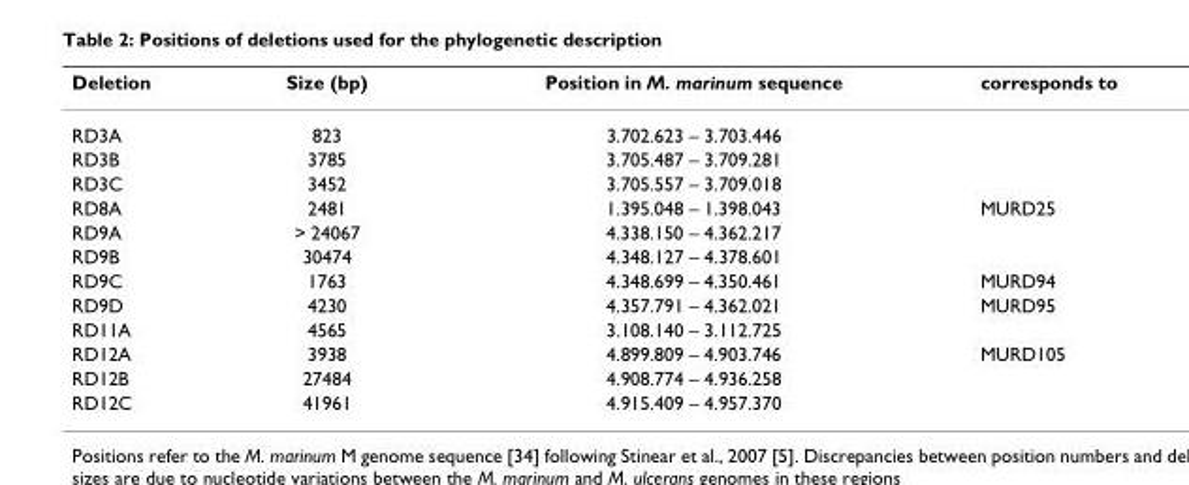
<table><thead><tr><td>Deletion</td><td>Size (bp)</td><td>Position in M. marinum sequence</td><td>corresponds to</td></tr></thead><tbody><tr><td>RD3A</td><td>823</td><td>3.702.623 – 3.703.446</td><td></td></tr><tr><td>RD3B</td><td>3785</td><td>3.705.487 – 3.709.281</td><td></td></tr><tr><td>RD3C</td><td>3452</td><td>3.705.557 – 3.709.018</td><td></td></tr><tr><td>RD8A</td><td>2481</td><td>1.395.048 – 1.398.043</td><td>MURD25</td></tr><tr><td>RD9A</td><td>&gt; 24067</td><td>4.338.150 – 4.362.217</td><td></td></tr><tr><td>RD9B</td><td>30474</td><td>4.348.127 – 4.378.601</td><td></td></tr><tr><td>RD9C</td><td>1763</td><td>4.348.699 – 4.350.461</td><td>MURD94</td></tr><tr><td>RD9D</td><td>4230</td><td>4.357.791 – 4.362.021</td><td>MURD95</td></tr><tr><td>RD11A</td><td>4565</td><td>3.108.140 – 3.112.725</td><td></td></tr><tr><td>RD12A</td><td>3938</td><td>4.899.809 – 4.903.746</td><td>MURD105</td></tr><tr><td>RD12B</td><td>27484</td><td>4.908.774 – 4.936.258</td><td></td></tr><tr><td>RD12C</td><td>41961</td><td>4.915.409 – 4.957.370</td><td></td></tr></tbody></table>